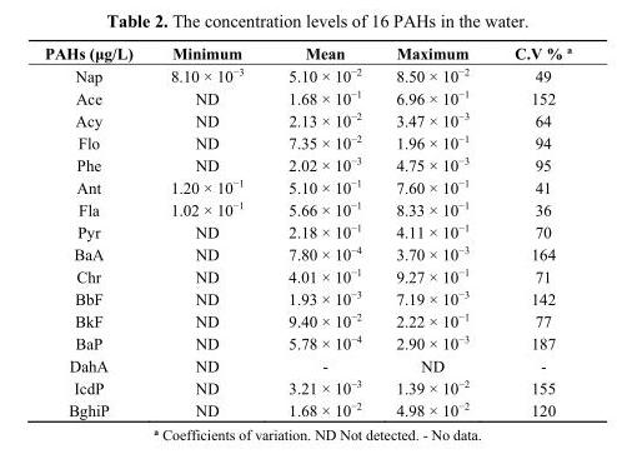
<table><thead><tr><td>PAHs (μg/L)</td><td>Minimum</td><td>Mean</td><td>Maximum</td><td>C.V % <sup>a</sup></td></tr></thead><tbody><tr><td>Nap</td><td>8.10 × 10<sup>−3</sup></td><td>5.10 × 10<sup>−2</sup></td><td>8.50 × 10<sup>−2</sup></td><td>49</td></tr><tr><td>Ace</td><td>ND</td><td>1.68 × 10<sup>−1</sup></td><td>6.96 × 10<sup>−1</sup></td><td>152</td></tr><tr><td>Acy</td><td>ND</td><td>2.13 × 10<sup>−2</sup></td><td>3.47 × 10<sup>−3</sup></td><td>64</td></tr><tr><td>Flo</td><td>ND</td><td>7.35 × 10<sup>−2</sup></td><td>1.96 × 10<sup>−1</sup></td><td>94</td></tr><tr><td>Phe</td><td>ND</td><td>2.02 × 10<sup>−3</sup></td><td>4.75 × 10<sup>−3</sup></td><td>95</td></tr><tr><td>Ant</td><td>1.20 × 10<sup>−1</sup></td><td>5.10 × 10<sup>−1</sup></td><td>7.60 × 10<sup>−1</sup></td><td>41</td></tr><tr><td>Fla</td><td>1.02 × 10<sup>−1</sup></td><td>5.66 × 10<sup>−1</sup></td><td>8.33 × 10<sup>−1</sup></td><td>36</td></tr><tr><td>Pyr</td><td>ND</td><td>2.18 × 10<sup>−1</sup></td><td>4.11 × 10<sup>−1</sup></td><td>70</td></tr><tr><td>BaA</td><td>ND</td><td>7.80 × 10<sup>−4</sup></td><td>3.70 × 10<sup>−3</sup></td><td>164</td></tr><tr><td>Chr</td><td>ND</td><td>4.01 × 10<sup>−1</sup></td><td>9.27 × 10<sup>−1</sup></td><td>71</td></tr><tr><td>BbF</td><td>ND</td><td>1.93 × 10<sup>−3</sup></td><td>7.19 × 10<sup>−3</sup></td><td>142</td></tr><tr><td>BkF</td><td>ND</td><td>9.40 × 10<sup>−2</sup></td><td>2.22 × 10<sup>−1</sup></td><td>77</td></tr><tr><td>BaP</td><td>ND</td><td>5.78 × 10<sup>−4</sup></td><td>2.90 × 10<sup>−3</sup></td><td>187</td></tr><tr><td>DahA</td><td>ND</td><td>-</td><td>ND</td><td>-</td></tr><tr><td>IcdP</td><td>ND</td><td>3.21 × 10<sup>−3</sup></td><td>1.39 × 10<sup>−2</sup></td><td>155</td></tr><tr><td>BghiP</td><td>ND</td><td>1.68 × 10<sup>−2</sup></td><td>4.98 × 10<sup>−2</sup></td><td>120</td></tr></tbody></table>